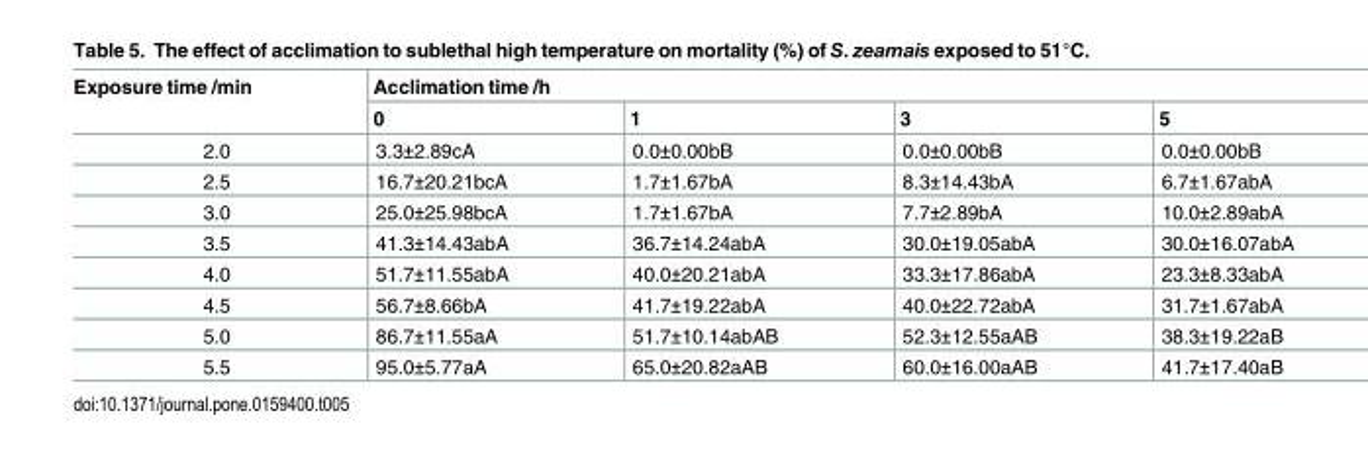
<table><thead><tr><td rowspan="2">Exposure time /min</td><td colspan="4">Acclimation time /h</td></tr><tr><td>0</td><td>1</td><td>3</td><td>5</td></tr></thead><tbody><tr><td>2.0</td><td>3.3±2.89cA</td><td>0.0±0.00bB</td><td>0.0±0.00bB</td><td>0.0±0.00bB</td></tr><tr><td>2.5</td><td>16.7±20.21bcA</td><td>1.7±1.67bA</td><td>8.3±14.43bA</td><td>6.7±1.67abA</td></tr><tr><td>3.0</td><td>25.0±25.98bcA</td><td>1.7±1.67bA</td><td>7.7±2.89bA</td><td>10.0±2.89abA</td></tr><tr><td>3.5</td><td>41.3±14.43abA</td><td>36.7±14.24abA</td><td>30.0±19.05abA</td><td>30.0±16.07abA</td></tr><tr><td>4.0</td><td>51.7±11.55abA</td><td>40.0±20.21abA</td><td>33.3±17.86abA</td><td>23.3±8.33abA</td></tr><tr><td>4.5</td><td>56.7±8.66bA</td><td>41.7±19.22abA</td><td>40.0±22.72abA</td><td>31.7±1.67abA</td></tr><tr><td>5.0</td><td>86.7±11.55aA</td><td>51.7±10.14abAB</td><td>52.3±12.55aAB</td><td>38.3±19.22aB</td></tr><tr><td>5.5</td><td>95.0±5.77aA</td><td>65.0±20.82aAB</td><td>60.0±16.00aAB</td><td>41.7±17.40aB</td></tr></tbody></table>